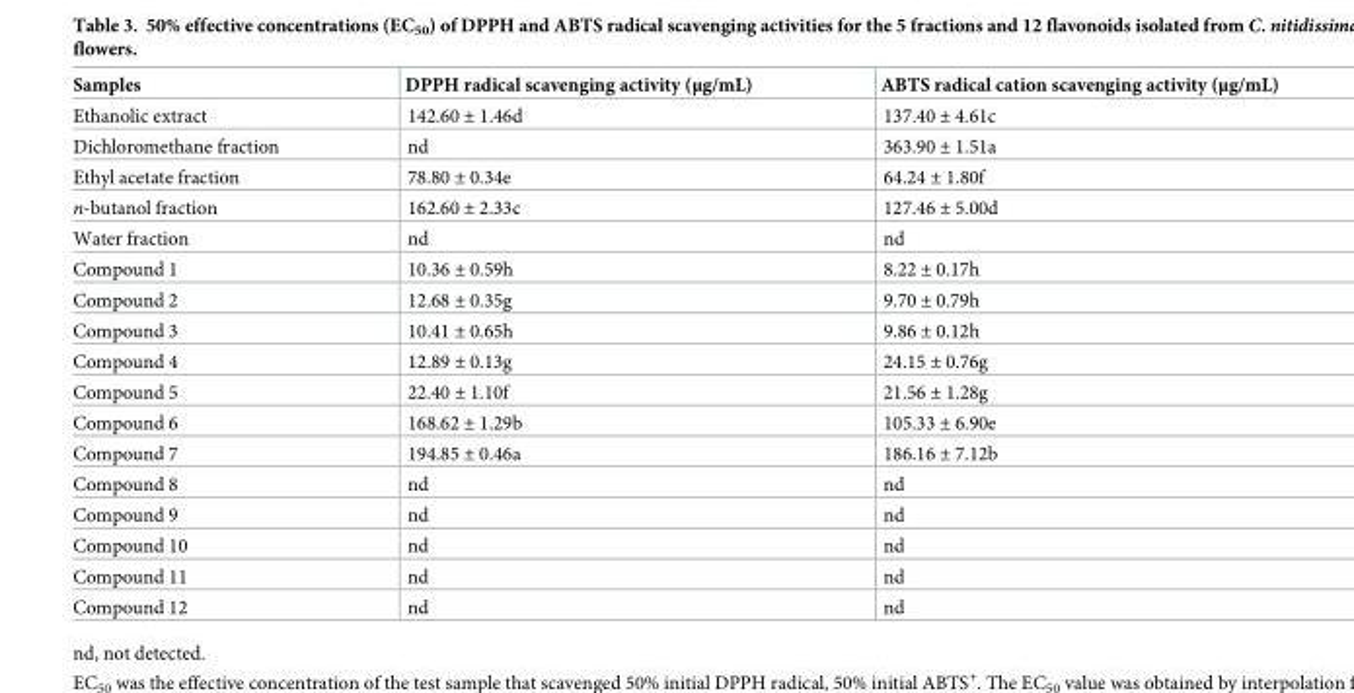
<table><thead><tr><td>Samples</td><td>DPPH radical scavenging activity (μg/mL)</td><td>ABTS radical cation scavenging activity (μg/mL)</td></tr></thead><tbody><tr><td>Ethanolic extract</td><td>142.60 ± 1.46d</td><td>137.40 ± 4.61c</td></tr><tr><td>Dichloromethane fraction</td><td>nd</td><td>363.90 ± 1.51a</td></tr><tr><td>Ethyl acetate fraction</td><td>78.80 ± 0.34e</td><td>64.24 ± 1.80f</td></tr><tr><td>n-butanol fraction</td><td>162.60 ± 2.33c</td><td>127.46 ± 5.00d</td></tr><tr><td>Water fraction</td><td>nd</td><td>nd</td></tr><tr><td>Compound 1</td><td>10.36 ± 0.59h</td><td>8.22 ± 0.17h</td></tr><tr><td>Compound 2</td><td>12.68 ± 0.35g</td><td>9.70 ± 0.79h</td></tr><tr><td>Compound 3</td><td>10.41 ± 0.65h</td><td>9.86 ± 0.12h</td></tr><tr><td>Compound 4</td><td>12.89 ± 0.13g</td><td>24.15 ± 0.76g</td></tr><tr><td>Compound 5</td><td>22.40 ± 1.10f</td><td>21.56 ± 1.28g</td></tr><tr><td>Compound 6</td><td>168.62 ± 1.29b</td><td>105.33 ± 6.90e</td></tr><tr><td>Compound 7</td><td>194.85 ± 0.46a</td><td>186.16 ± 7.12b</td></tr><tr><td>Compound 8</td><td>nd</td><td>nd</td></tr><tr><td>Compound 9</td><td>nd</td><td>nd</td></tr><tr><td>Compound 10</td><td>nd</td><td>nd</td></tr><tr><td>Compound 11</td><td>nd</td><td>nd</td></tr><tr><td>Compound 12</td><td>nd</td><td>nd</td></tr></tbody></table>